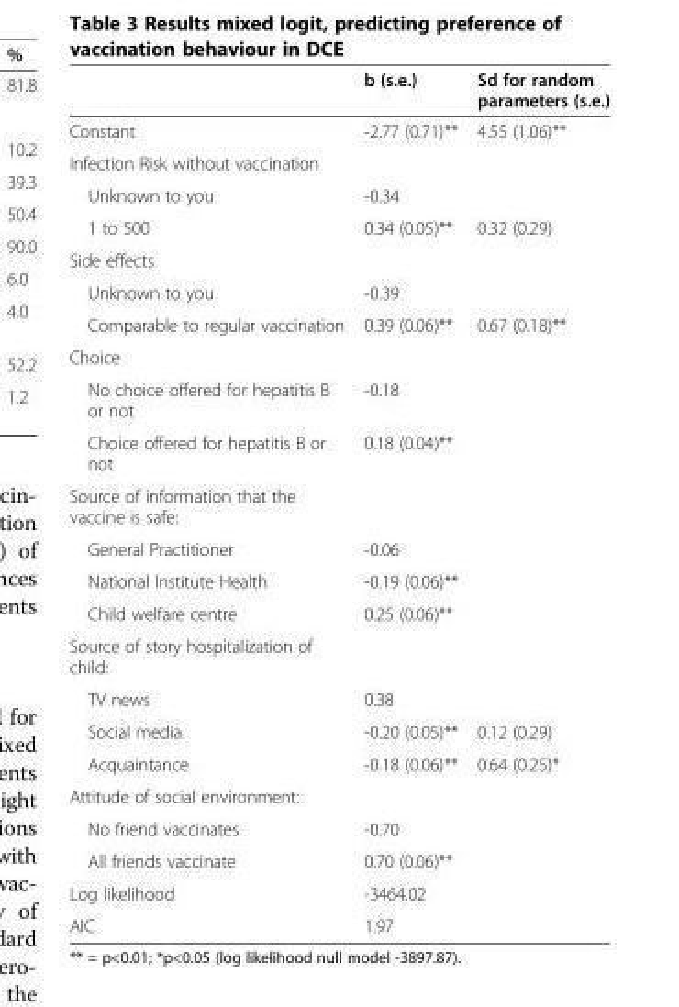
<table><thead><tr><td></td><td>b (s.e.)</td><td>Sd for random parameters (s.e.)</td></tr></thead><tbody><tr><td>Constant</td><td>-2.77 (0.71)**</td><td>4.55 (1.06)**</td></tr><tr><td colspan="3">Infection Risk without vaccination</td></tr><tr><td>Unknown to you</td><td>-0.34</td><td></td></tr><tr><td>1 to 500</td><td>0.34 (0.05)**</td><td>0.32 (0.29)</td></tr><tr><td colspan="3">Side effects</td></tr><tr><td>Unknown to you</td><td>-0.39</td><td></td></tr><tr><td>Comparable to regular vaccination</td><td>0.39 (0.06)**</td><td>0.67 (0.18)**</td></tr><tr><td colspan="3">Choice</td></tr><tr><td>No choice offered for hepatitis B or not</td><td>-0.18</td><td></td></tr><tr><td>Choice offered for hepatitis B or not</td><td>0.18 (0.04)**</td><td></td></tr><tr><td colspan="3">Source of information that the vaccine is safe:</td></tr><tr><td>General Practitioner</td><td>-0.06</td><td></td></tr><tr><td>National Institute Health</td><td>-0.19 (0.06)**</td><td></td></tr><tr><td>Child welfare centre</td><td>0.25 (0.06)**</td><td></td></tr><tr><td colspan="3">Source of story hospitalization of child:</td></tr><tr><td>TV news</td><td>0.38</td><td></td></tr><tr><td>Social media</td><td>-0.20 (0.05)**</td><td>0.12 (0.29)</td></tr><tr><td>Acquaintance</td><td>-0.18 (0.06)**</td><td>0.64 (0.25)*</td></tr><tr><td colspan="3">Attitude of social environment:</td></tr><tr><td>No friend vaccinates</td><td>-0.70</td><td></td></tr><tr><td>All friends vaccinate</td><td>0.70 (0.06)**</td><td></td></tr><tr><td>Log likelihood</td><td>-3464.02</td><td></td></tr><tr><td>AIC</td><td>1.97</td><td></td></tr></tbody></table>